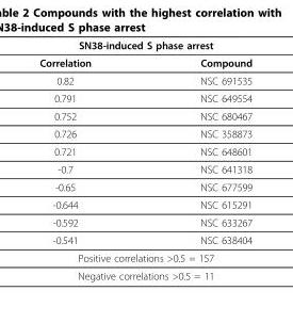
<table><thead><tr><td colspan="2">SN38-induced S phase arrest</td></tr><tr><td>Correlation</td><td>Compound</td></tr></thead><tbody><tr><td>0.82</td><td>NSC 691535</td></tr><tr><td>0.791</td><td>NSC 649554</td></tr><tr><td>0.752</td><td>NSC 680467</td></tr><tr><td>0.726</td><td>NSC 358873</td></tr><tr><td>0.721</td><td>NSC 648601</td></tr><tr><td>-0.7</td><td>NSC 641318</td></tr><tr><td>-0.65</td><td>NSC 677599</td></tr><tr><td>-0.644</td><td>NSC 615291</td></tr><tr><td>-0.592</td><td>NSC 633267</td></tr><tr><td>-0.541</td><td>NSC 638404</td></tr><tr><td colspan="2">Positive correlations &gt;0.5 = 157</td></tr><tr><td colspan="2">Negative correlations &gt;0.5 = 11</td></tr></tbody></table>